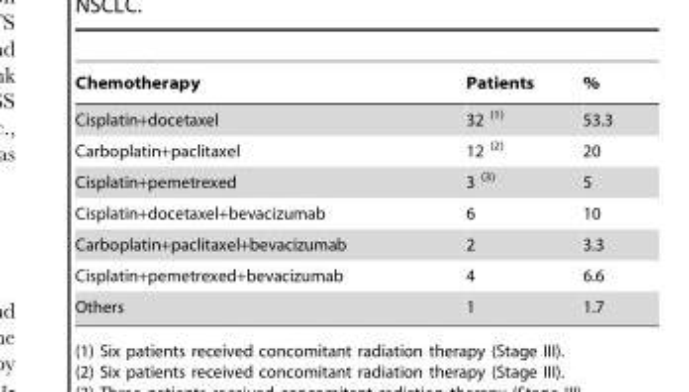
<table><thead><tr><td>Chemotherapy</td><td>Patients</td><td>%</td></tr></thead><tbody><tr><td>Cisplatin+docetaxel</td><td>32 <sup>(1)</sup></td><td>53.3</td></tr><tr><td>Carboplatin+paclitaxel</td><td>12 <sup>(2)</sup></td><td>20</td></tr><tr><td>Cisplatin+pemetrexed</td><td>3 <sup>(3)</sup></td><td>5</td></tr><tr><td>Cisplatin+docetaxel+bevacizumab</td><td>6</td><td>10</td></tr><tr><td>Carboplatin+paclitaxel+bevacizumab</td><td>2</td><td>3.3</td></tr><tr><td>Cisplatin+pemetrexed+bevacizumab</td><td>4</td><td>6.6</td></tr><tr><td>Others</td><td>1</td><td>1.7</td></tr></tbody></table>